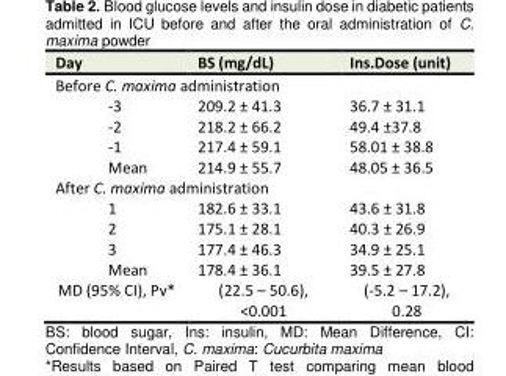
<table><tbody><tr><td>Day</td><td>BS (mg/dL)</td><td>Ins.Dose (unit)</td></tr><tr><td colspan="3">Before C. maxima administration</td></tr><tr><td>-3</td><td>209.2 ± 41.3</td><td>36.7 ± 31.1</td></tr><tr><td>-2</td><td>218.2 ± 66.2</td><td>49.4 ±37.8</td></tr><tr><td>-1</td><td>217.4 ± 59.1</td><td>58.01 ± 38.8</td></tr><tr><td>Mean</td><td>214.9 ± 55.7</td><td>48.05 ± 36.5</td></tr><tr><td colspan="3">After C. maxima administration</td></tr><tr><td>1</td><td>182.6 ± 33.1</td><td>43.6 ± 31.8</td></tr><tr><td>2</td><td>175.1 ± 28.1</td><td>40.3 ± 26.9</td></tr><tr><td>3</td><td>177.4 ± 46.3</td><td>34.9 ± 25.1</td></tr><tr><td>Mean</td><td>178.4 ± 36.1</td><td>39.5 ± 27.8</td></tr><tr><td>MD (95% CI), Pv*</td><td>(22.5 – 50.6), &lt;0.001</td><td>(-5.2 – 17.2), 0.28</td></tr></tbody></table>